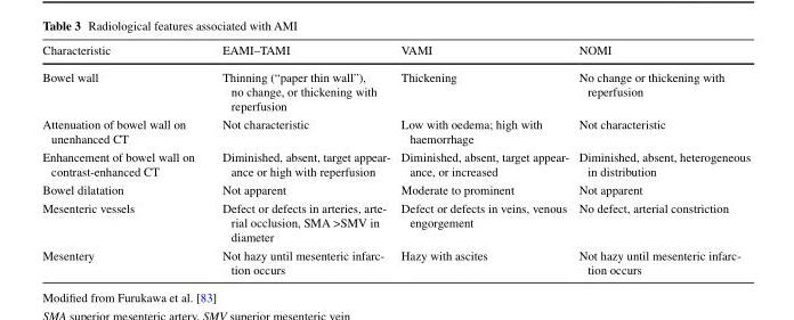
<table><thead><tr><td>Characteristic</td><td>EAMI–TAMI</td><td>VAMI</td><td>NOMI</td></tr></thead><tbody><tr><td>Bowel wall</td><td>Thinning (“paper thin wall”), no change, or thickening with reperfusion</td><td>Thickening</td><td>No change or thickening with reperfusion</td></tr><tr><td>Attenuation of bowel wall on unenhanced CT</td><td>Not characteristic</td><td>Low with oedema; high with haemorrhage</td><td>Not characteristic</td></tr><tr><td>Enhancement of bowel wall on contrast-enhanced CT</td><td>Diminished, absent, target appear- ance or high with reperfusion</td><td>Diminished, absent, target appear- ance, or increased</td><td>Diminished, absent, heterogeneous in distribution</td></tr><tr><td>Bowel dilatation</td><td>Not apparent</td><td>Moderate to prominent</td><td>Not apparent</td></tr><tr><td>Mesenteric vessels</td><td>Defect or defects in arteries, arte- rial occlusion, SMA &gt;SMV in diameter</td><td>Defect or defects in veins, venous engorgement</td><td>No defect, arterial constriction</td></tr><tr><td>Mesentery</td><td>Not hazy until mesenteric infarc- tion occurs</td><td>Hazy with ascites</td><td>Not hazy until mesenteric infarc- tion occurs</td></tr></tbody></table>